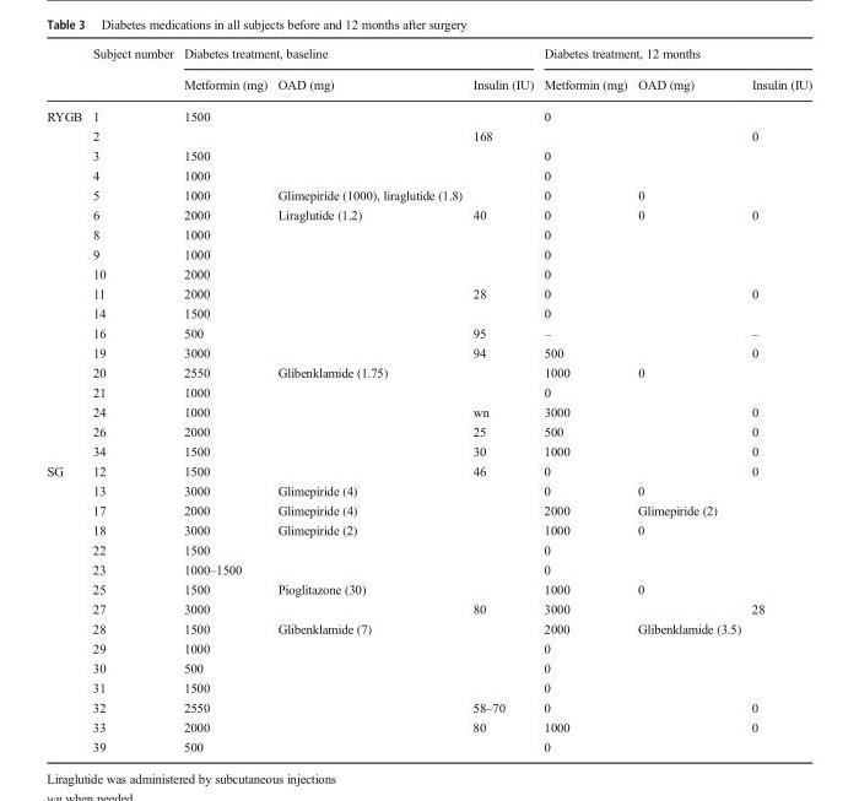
<table><thead><tr><td rowspan="2"></td><td rowspan="2">Subject number</td><td colspan="3">Diabetes treatment, baseline</td><td colspan="3">Diabetes treatment, 12 months</td></tr><tr><td>Metformin (mg)</td><td>OAD (mg)</td><td>Insulin (IU)</td><td>Metformin (mg)</td><td>OAD (mg)</td><td>Insulin (IU)</td></tr></thead><tbody><tr><td rowspan="18">RYGB</td><td>1</td><td>1500</td><td></td><td></td><td>0</td><td></td><td></td></tr><tr><td>2</td><td></td><td></td><td>168</td><td></td><td></td><td>0</td></tr><tr><td>3</td><td>1500</td><td></td><td></td><td>0</td><td></td><td></td></tr><tr><td>4</td><td>1000</td><td></td><td></td><td>0</td><td></td><td></td></tr><tr><td>5</td><td>1000</td><td>Glimepiride (1000), liraglutide (1.8)</td><td></td><td>0</td><td>0</td><td></td></tr><tr><td>6</td><td>2000</td><td>Liraglutide (1.2)</td><td>40</td><td>0</td><td>0</td><td>0</td></tr><tr><td>8</td><td>1000</td><td></td><td></td><td>0</td><td></td><td></td></tr><tr><td>9</td><td>1000</td><td></td><td></td><td>0</td><td></td><td></td></tr><tr><td>10</td><td>2000</td><td></td><td></td><td>0</td><td></td><td></td></tr><tr><td>11</td><td>2000</td><td></td><td>28</td><td>0</td><td></td><td>0</td></tr><tr><td>14</td><td>1500</td><td></td><td></td><td>0</td><td></td><td></td></tr><tr><td>16</td><td>500</td><td></td><td>95</td><td>–</td><td></td><td>–</td></tr><tr><td>19</td><td>3000</td><td></td><td>94</td><td>500</td><td></td><td>0</td></tr><tr><td>20</td><td>2550</td><td>Glibenklamide (1.75)</td><td></td><td>1000</td><td>0</td><td></td></tr><tr><td>21</td><td>1000</td><td></td><td></td><td>0</td><td></td><td></td></tr><tr><td>24</td><td>1000</td><td></td><td>wn</td><td>3000</td><td></td><td>0</td></tr><tr><td>26</td><td>2000</td><td></td><td>25</td><td>500</td><td></td><td>0</td></tr><tr><td>34</td><td>1500</td><td></td><td>30</td><td>1000</td><td></td><td>0</td></tr><tr><td rowspan="15">SG</td><td>12</td><td>1500</td><td></td><td>46</td><td>0</td><td></td><td>0</td></tr><tr><td>13</td><td>3000</td><td>Glimepiride (4)</td><td></td><td>0</td><td>0</td><td></td></tr><tr><td>17</td><td>2000</td><td>Glimepiride (4)</td><td></td><td>2000</td><td>Glimepiride (2)</td><td></td></tr><tr><td>18</td><td>3000</td><td>Glimepiride (2)</td><td></td><td>1000</td><td>0</td><td></td></tr><tr><td>22</td><td>1500</td><td></td><td></td><td>0</td><td></td><td></td></tr><tr><td>23</td><td>1000–1500</td><td></td><td></td><td>0</td><td></td><td></td></tr><tr><td>25</td><td>1500</td><td>Pioglitazone (30)</td><td></td><td>1000</td><td>0</td><td></td></tr><tr><td>27</td><td>3000</td><td></td><td>80</td><td>3000</td><td></td><td>28</td></tr><tr><td>28</td><td>1500</td><td>Glibenklamide (7)</td><td></td><td>2000</td><td>Glibenklamide (3.5)</td><td></td></tr><tr><td>29</td><td>1000</td><td></td><td></td><td>0</td><td></td><td></td></tr><tr><td>30</td><td>500</td><td></td><td></td><td>0</td><td></td><td></td></tr><tr><td>31</td><td>1500</td><td></td><td></td><td>0</td><td></td><td></td></tr><tr><td>32</td><td>2550</td><td></td><td>58–70</td><td>0</td><td></td><td>0</td></tr><tr><td>33</td><td>2000</td><td></td><td>80</td><td>1000</td><td></td><td>0</td></tr><tr><td>39</td><td>500</td><td></td><td></td><td>0</td><td></td><td></td></tr></tbody></table>